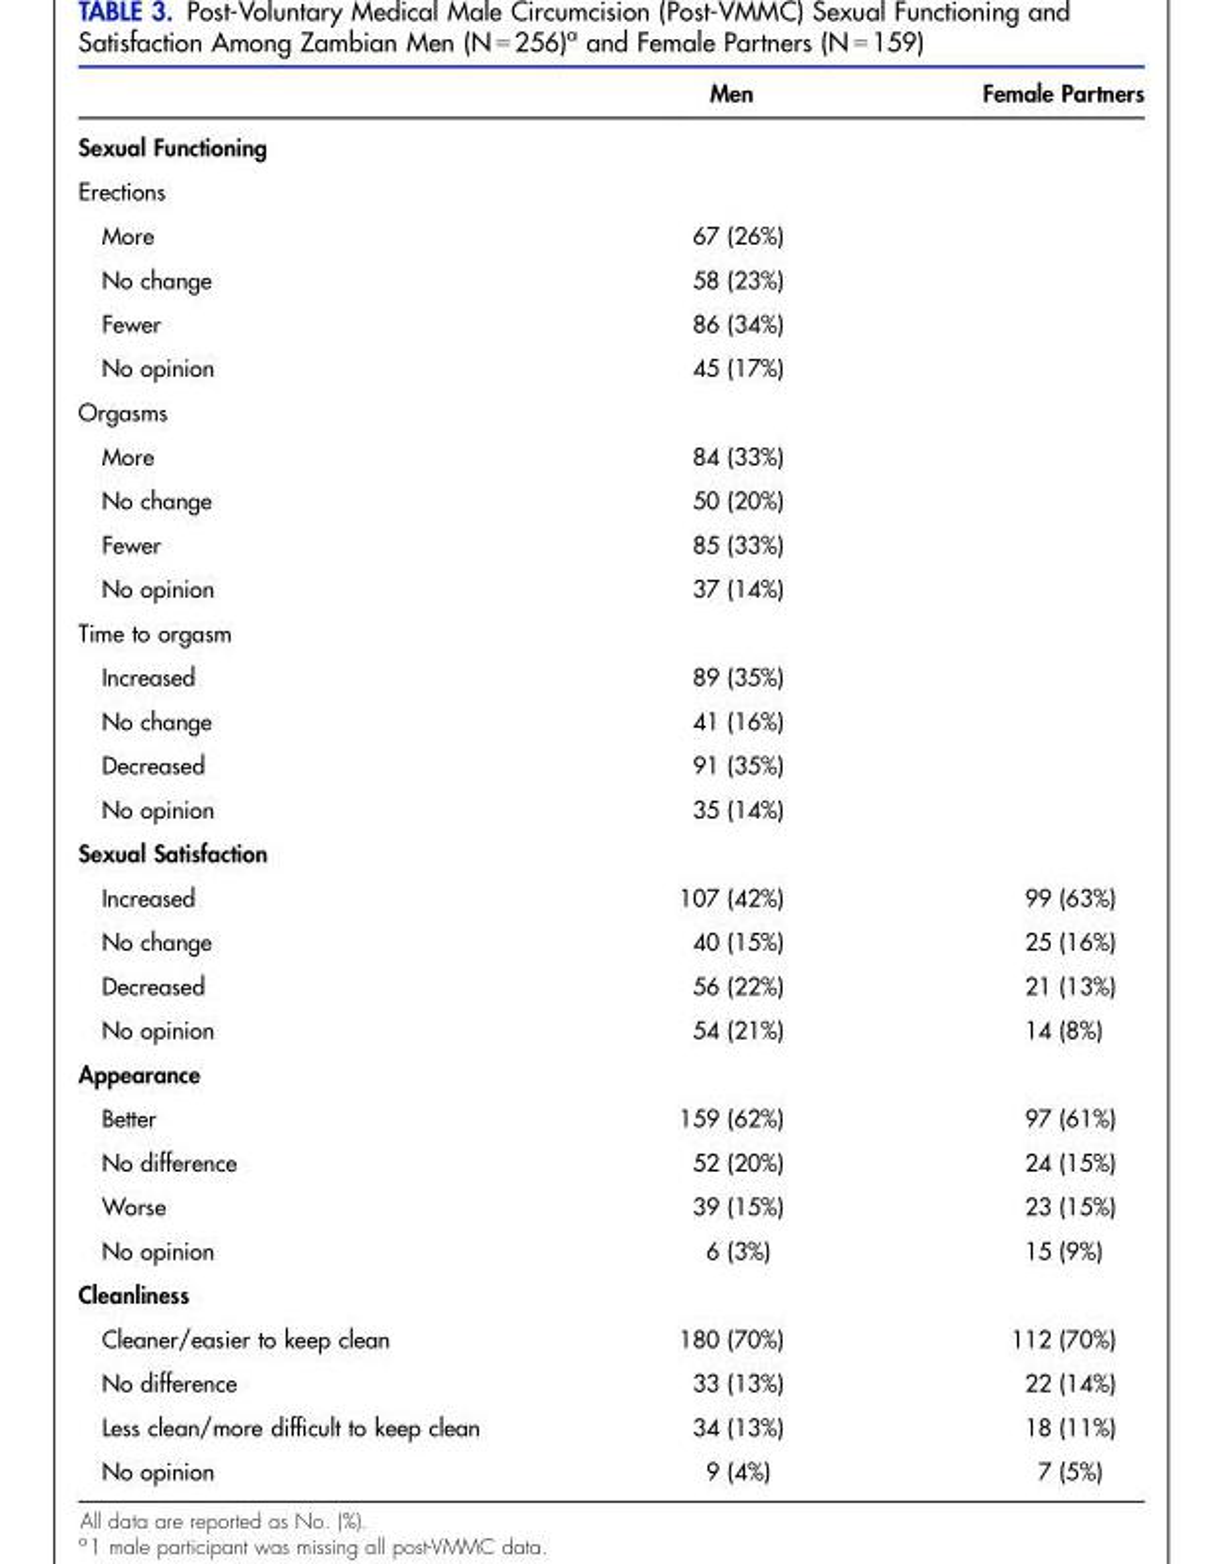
<table><thead><tr><td></td><td>Men</td><td>Female Partners</td></tr></thead><tbody><tr><td colspan="3">Sexual Functioning</td></tr><tr><td colspan="3">Erections</td></tr><tr><td>More</td><td>67 (26%)</td><td></td></tr><tr><td>No change</td><td>58 (23%)</td><td></td></tr><tr><td>Fewer</td><td>86 (34%)</td><td></td></tr><tr><td>No opinion</td><td>45 (17%)</td><td></td></tr><tr><td colspan="3">Orgasms</td></tr><tr><td>More</td><td>84 (33%)</td><td></td></tr><tr><td>No change</td><td>50 (20%)</td><td></td></tr><tr><td>Fewer</td><td>85 (33%)</td><td></td></tr><tr><td>No opinion</td><td>37 (14%)</td><td></td></tr><tr><td colspan="3">Time to orgasm</td></tr><tr><td>Increased</td><td>89 (35%)</td><td></td></tr><tr><td>No change</td><td>41 (16%)</td><td></td></tr><tr><td>Decreased</td><td>91 (35%)</td><td></td></tr><tr><td>No opinion</td><td>35 (14%)</td><td></td></tr><tr><td colspan="3">Sexual Satisfaction</td></tr><tr><td>Increased</td><td>107 (42%)</td><td>99 (63%)</td></tr><tr><td>No change</td><td>40 (15%)</td><td>25 (16%)</td></tr><tr><td>Decreased</td><td>56 (22%)</td><td>21 (13%)</td></tr><tr><td>No opinion</td><td>54 (21%)</td><td>14 (8%)</td></tr><tr><td colspan="3">Appearance</td></tr><tr><td>Better</td><td>159 (62%)</td><td>97 (61%)</td></tr><tr><td>No difference</td><td>52 (20%)</td><td>24 (15%)</td></tr><tr><td>Worse</td><td>39 (15%)</td><td>23 (15%)</td></tr><tr><td>No opinion</td><td>6 (3%)</td><td>15 (9%)</td></tr><tr><td colspan="3">Cleanliness</td></tr><tr><td>Cleaner/easier to keep clean</td><td>180 (70%)</td><td>112 (70%)</td></tr><tr><td>No difference</td><td>33 (13%)</td><td>22 (14%)</td></tr><tr><td>Less clean/more difficult to keep clean</td><td>34 (13%)</td><td>18 (11%)</td></tr><tr><td>No opinion</td><td>9 (4%)</td><td>7 (5%)</td></tr></tbody></table>